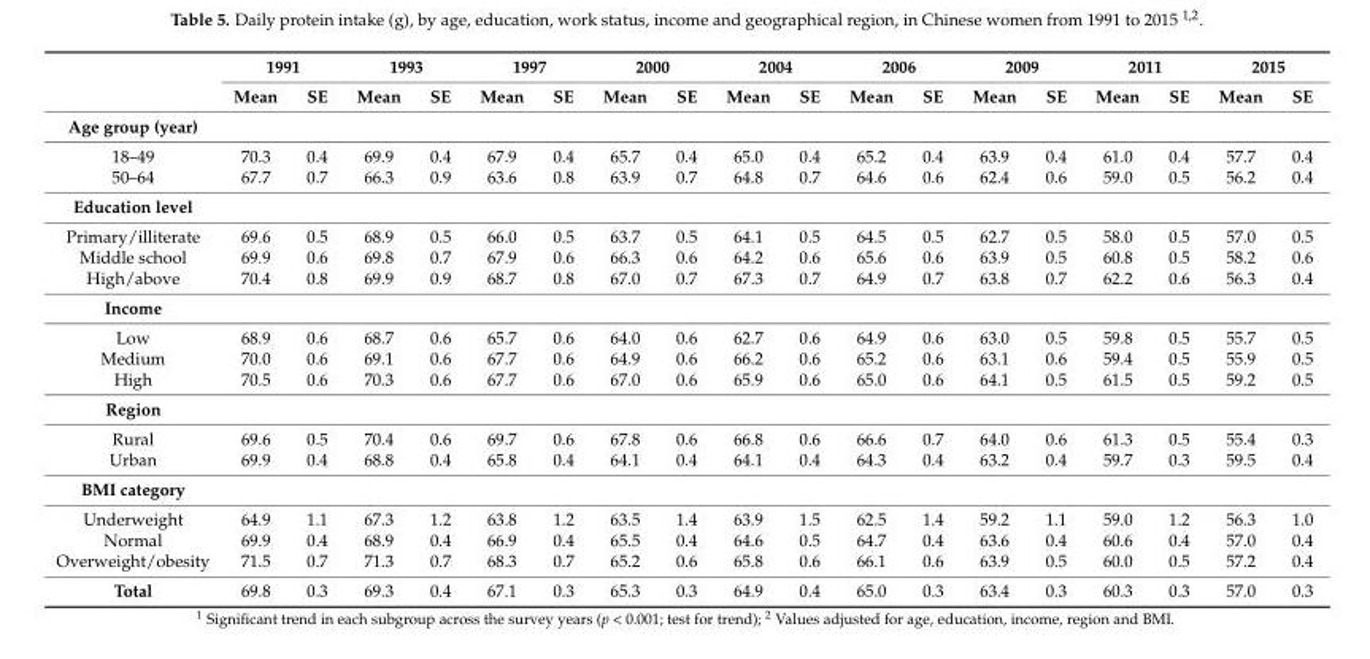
<table><thead><tr><td rowspan="2"></td><td colspan="2">1991</td><td colspan="2">1993</td><td colspan="2">1997</td><td colspan="2">2000</td><td colspan="2">2004</td><td colspan="2">2006</td><td colspan="2">2009</td><td colspan="2">2011</td><td colspan="2">2015</td></tr><tr><td>Mean</td><td>SE</td><td>Mean</td><td>SE</td><td>Mean</td><td>SE</td><td>Mean</td><td>SE</td><td>Mean</td><td>SE</td><td>Mean</td><td>SE</td><td>Mean</td><td>SE</td><td>Mean</td><td>SE</td><td>Mean</td><td>SE</td></tr></thead><tbody><tr><td colspan="19">Age group (year)</td></tr><tr><td>18–49</td><td>70.3</td><td>0.4</td><td>69.9</td><td>0.4</td><td>67.9</td><td>0.4</td><td>65.7</td><td>0.4</td><td>65.0</td><td>0.4</td><td>65.2</td><td>0.4</td><td>63.9</td><td>0.4</td><td>61.0</td><td>0.4</td><td>57.7</td><td>0.4</td></tr><tr><td>50–64</td><td>67.7</td><td>0.7</td><td>66.3</td><td>0.9</td><td>63.6</td><td>0.8</td><td>63.9</td><td>0.7</td><td>64.8</td><td>0.7</td><td>64.6</td><td>0.6</td><td>62.4</td><td>0.6</td><td>59.0</td><td>0.5</td><td>56.2</td><td>0.4</td></tr><tr><td colspan="19">Education level</td></tr><tr><td>Primary/illiterate</td><td>69.6</td><td>0.5</td><td>68.9</td><td>0.5</td><td>66.0</td><td>0.5</td><td>63.7</td><td>0.5</td><td>64.1</td><td>0.5</td><td>64.5</td><td>0.5</td><td>62.7</td><td>0.5</td><td>58.0</td><td>0.5</td><td>57.0</td><td>0.5</td></tr><tr><td>Middle school</td><td>69.9</td><td>0.6</td><td>69.8</td><td>0.7</td><td>67.9</td><td>0.6</td><td>66.3</td><td>0.6</td><td>64.2</td><td>0.6</td><td>65.6</td><td>0.6</td><td>63.9</td><td>0.5</td><td>60.8</td><td>0.5</td><td>58.2</td><td>0.6</td></tr><tr><td>High/above</td><td>70.4</td><td>0.8</td><td>69.9</td><td>0.9</td><td>68.7</td><td>0.8</td><td>67.0</td><td>0.7</td><td>67.3</td><td>0.7</td><td>64.9</td><td>0.7</td><td>63.8</td><td>0.7</td><td>62.2</td><td>0.6</td><td>56.3</td><td>0.4</td></tr><tr><td colspan="19">Income</td></tr><tr><td>Low</td><td>68.9</td><td>0.6</td><td>68.7</td><td>0.6</td><td>65.7</td><td>0.6</td><td>64.0</td><td>0.6</td><td>62.7</td><td>0.6</td><td>64.9</td><td>0.6</td><td>63.0</td><td>0.5</td><td>59.8</td><td>0.5</td><td>55.7</td><td>0.5</td></tr><tr><td>Medium</td><td>70.0</td><td>0.6</td><td>69.1</td><td>0.6</td><td>67.7</td><td>0.6</td><td>64.9</td><td>0.6</td><td>66.2</td><td>0.6</td><td>65.2</td><td>0.6</td><td>63.1</td><td>0.6</td><td>59.4</td><td>0.5</td><td>55.9</td><td>0.5</td></tr><tr><td>High</td><td>70.5</td><td>0.6</td><td>70.3</td><td>0.6</td><td>67.7</td><td>0.6</td><td>67.0</td><td>0.6</td><td>65.9</td><td>0.6</td><td>65.0</td><td>0.6</td><td>64.1</td><td>0.5</td><td>61.5</td><td>0.5</td><td>59.2</td><td>0.5</td></tr><tr><td colspan="19">Region</td></tr><tr><td>Rural</td><td>69.6</td><td>0.5</td><td>70.4</td><td>0.6</td><td>69.7</td><td>0.6</td><td>67.8</td><td>0.6</td><td>66.8</td><td>0.6</td><td>66.6</td><td>0.7</td><td>64.0</td><td>0.6</td><td>61.3</td><td>0.5</td><td>55.4</td><td>0.3</td></tr><tr><td>Urban</td><td>69.9</td><td>0.4</td><td>68.8</td><td>0.4</td><td>65.8</td><td>0.4</td><td>64.1</td><td>0.4</td><td>64.1</td><td>0.4</td><td>64.3</td><td>0.4</td><td>63.2</td><td>0.4</td><td>59.7</td><td>0.3</td><td>59.5</td><td>0.4</td></tr><tr><td colspan="19">BMI category</td></tr><tr><td>Underweight</td><td>64.9</td><td>1.1</td><td>67.3</td><td>1.2</td><td>63.8</td><td>1.2</td><td>63.5</td><td>1.4</td><td>63.9</td><td>1.5</td><td>62.5</td><td>1.4</td><td>59.2</td><td>1.1</td><td>59.0</td><td>1.2</td><td>56.3</td><td>1.0</td></tr><tr><td>Normal</td><td>69.9</td><td>0.4</td><td>68.9</td><td>0.4</td><td>66.9</td><td>0.4</td><td>65.5</td><td>0.4</td><td>64.6</td><td>0.5</td><td>64.7</td><td>0.4</td><td>63.6</td><td>0.4</td><td>60.6</td><td>0.4</td><td>57.0</td><td>0.4</td></tr><tr><td>Overweight/obesity</td><td>71.5</td><td>0.7</td><td>71.3</td><td>0.7</td><td>68.3</td><td>0.7</td><td>65.2</td><td>0.6</td><td>65.8</td><td>0.6</td><td>66.1</td><td>0.6</td><td>63.9</td><td>0.5</td><td>60.0</td><td>0.5</td><td>57.2</td><td>0.4</td></tr><tr><td>Total</td><td>69.8</td><td>0.3</td><td>69.3</td><td>0.4</td><td>67.1</td><td>0.3</td><td>65.3</td><td>0.3</td><td>64.9</td><td>0.4</td><td>65.0</td><td>0.3</td><td>63.4</td><td>0.3</td><td>60.3</td><td>0.3</td><td>57.0</td><td>0.3</td></tr></tbody></table>